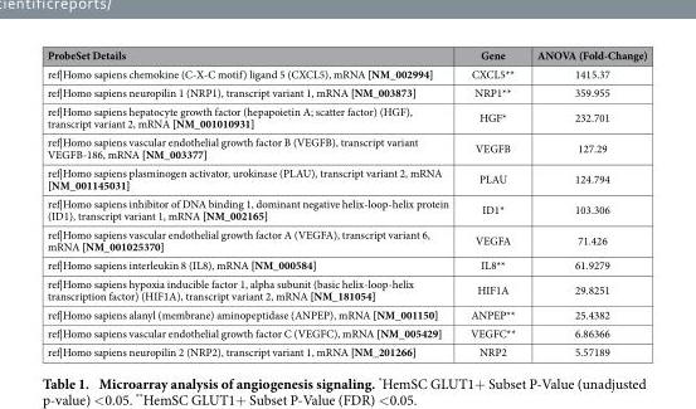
<table><thead><tr><td>ProbeSet Details</td><td>Gene</td><td>ANOVA (Fold-Change)</td></tr></thead><tbody><tr><td>ref|Homo sapiens chemokine (C-X-C motif) ligand 5 (CXCL5), mRNA [NM_002994]</td><td>CXCL5**</td><td>1415.37</td></tr><tr><td>ref|Homo sapiens neuropilin 1 (NRP1), transcript variant 1, mRNA [NM_003873]</td><td>NRP1**</td><td>359.955</td></tr><tr><td>ref|Homo sapiens hepatocyte growth factor (hepapoietin A; scatter factor) (HGF), transcript variant 2, mRNA [NM_001010931]</td><td>HGF*</td><td>232.701</td></tr><tr><td>ref|Homo sapiens vascular endothelial growth factor B (VEGFB), transcript variant VEGFB-186, mRNA [NM_003377]</td><td>VEGFB</td><td>127.29</td></tr><tr><td>ref|Homo sapiens plasminogen activator, urokinase (PLAU), transcript variant 2, mRNA [NM_001145031]</td><td>PLAU</td><td>124.794</td></tr><tr><td>ref|Homo sapiens inhibitor of DNA binding 1, dominant negative helix-loop-helix protein (ID1), transcript variant 1, mRNA [NM_002165]</td><td>ID1*</td><td>103.306</td></tr><tr><td>ref|Homo sapiens vascular endothelial growth factor A (VEGFA), transcript variant 6, mRNA [NM_001025370]</td><td>VEGFA</td><td>71.426</td></tr><tr><td>ref|Homo sapiens interleukin 8 (IL8), mRNA [NM_000584]</td><td>IL8**</td><td>61.9279</td></tr><tr><td>ref|Homo sapiens hypoxia inducible factor 1, alpha subunit (basic helix-loop-helix transcription factor) (HIF1A), transcript variant 2, mRNA [NM_181054]</td><td>HIF1A</td><td>29.8251</td></tr><tr><td>ref|Homo sapiens alanyl (membrane) aminopeptidase (ANPEP), mRNA [NM_001150]</td><td>ANPEP**</td><td>25.4382</td></tr><tr><td>ref|Homo sapiens vascular endothelial growth factor C (VEGFC), mRNA [NM_005429]</td><td>VEGFC**</td><td>6.86366</td></tr><tr><td>ref|Homo sapiens neuropilin 2 (NRP2), transcript variant 1, mRNA [NM_201266]</td><td>NRP2</td><td>5.57189</td></tr></tbody></table>